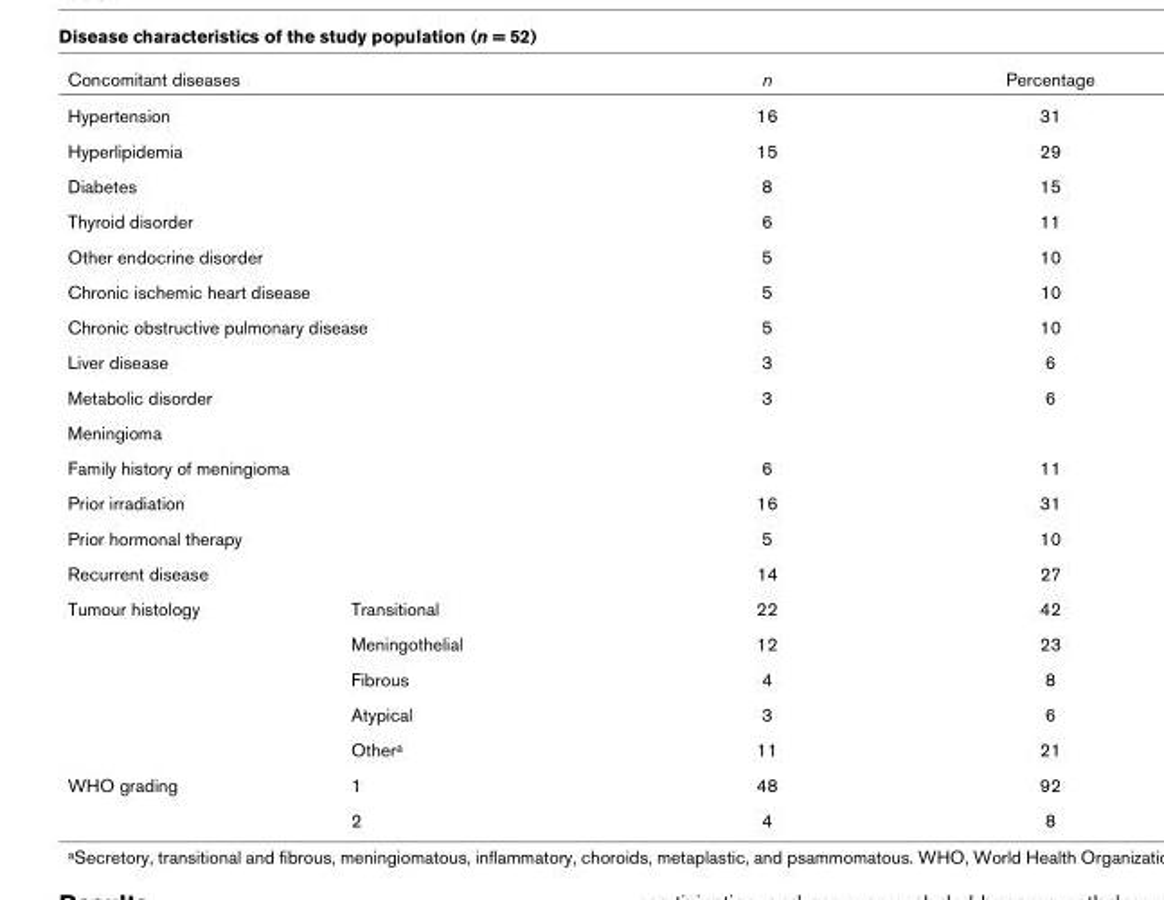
<table><thead><tr><td colspan="2">Concomitant diseases</td><td>n</td><td>Percentage</td></tr></thead><tbody><tr><td colspan="2">Hypertension</td><td>16</td><td>31</td></tr><tr><td colspan="2">Hyperlipidemia</td><td>15</td><td>29</td></tr><tr><td colspan="2">Diabetes</td><td>8</td><td>15</td></tr><tr><td colspan="2">Thyroid disorder</td><td>6</td><td>11</td></tr><tr><td colspan="2">Other endocrine disorder</td><td>5</td><td>10</td></tr><tr><td colspan="2">Chronic ischemic heart disease</td><td>5</td><td>10</td></tr><tr><td colspan="2">Chronic obstructive pulmonary disease</td><td>5</td><td>10</td></tr><tr><td colspan="2">Liver disease</td><td>3</td><td>6</td></tr><tr><td colspan="2">Metabolic disorder</td><td>3</td><td>6</td></tr><tr><td colspan="4">Meningioma</td></tr><tr><td colspan="2">Family history of meningioma</td><td>6</td><td>11</td></tr><tr><td colspan="2">Prior irradiation</td><td>16</td><td>31</td></tr><tr><td colspan="2">Prior hormonal therapy</td><td>5</td><td>10</td></tr><tr><td colspan="2">Recurrent disease</td><td>14</td><td>27</td></tr><tr><td rowspan="5">Tumour histology</td><td>Transitional</td><td>22</td><td>42</td></tr><tr><td>Meningothelial</td><td>12</td><td>23</td></tr><tr><td>Fibrous</td><td>4</td><td>8</td></tr><tr><td>Atypical</td><td>3</td><td>6</td></tr><tr><td>Othera</td><td>11</td><td>21</td></tr><tr><td rowspan="2">WHO grading</td><td>1</td><td>48</td><td>92</td></tr><tr><td>2</td><td>4</td><td>8</td></tr></tbody></table>